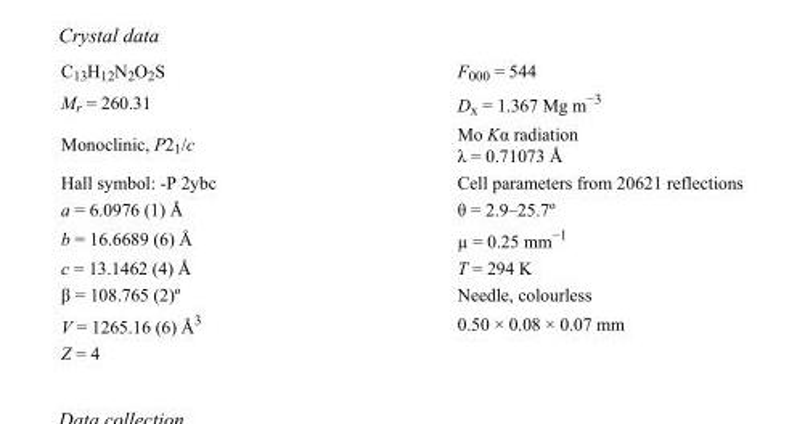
<table><tbody><tr><td>C<sub>13</sub>H<sub>12</sub>N<sub>2</sub>O<sub>2</sub>S</td><td>F<sub>000</sub> = 544</td></tr><tr><td>M<sub>r</sub> = 260.31</td><td>D<sub>x</sub> = 1.367 Mg m<sup>−3</sup></td></tr><tr><td>Monoclinic, P2<sub>1</sub>/c</td><td>Mo Kα radiation λ = 0.71073 Å</td></tr><tr><td>Hall symbol: -P 2ybc</td><td>Cell parameters from 20621 reflections</td></tr><tr><td>a = 6.0976 (1) Å</td><td>θ = 2.9–25.7º</td></tr><tr><td>b = 16.6689 (6) Å</td><td>µ = 0.25 mm<sup>−1</sup></td></tr><tr><td>c = 13.1462 (4) Å</td><td>T = 294 K</td></tr><tr><td>β = 108.765 (2)º</td><td>Needle, colourless</td></tr><tr><td>V = 1265.16 (6) Å<sup>3</sup></td><td>0.50 × 0.08 × 0.07 mm</td></tr><tr><td>Z = 4</td><td></td></tr></tbody></table>